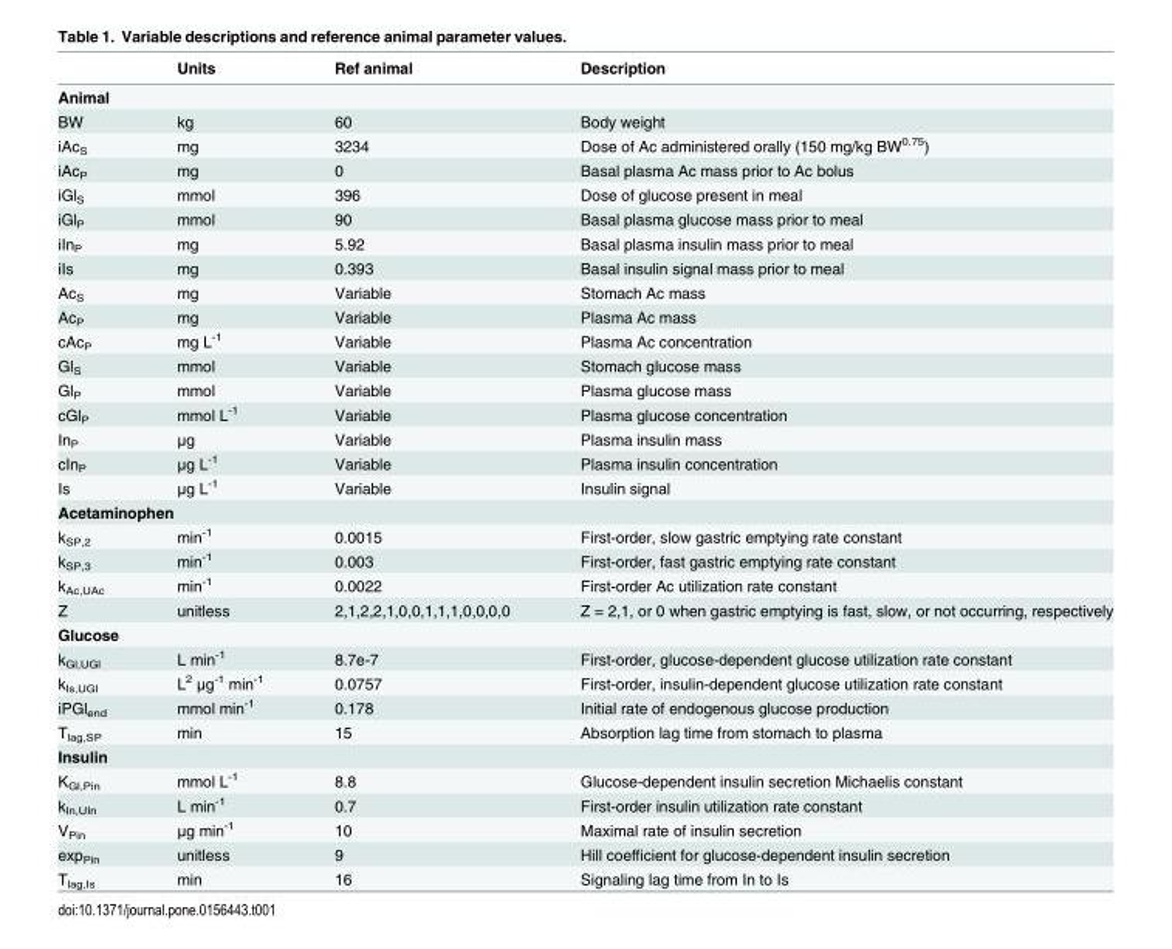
<table><thead><tr><td></td><td>Units</td><td>Ref animal</td><td>Description</td></tr></thead><tbody><tr><td colspan="4">Animal</td></tr><tr><td>BW</td><td>kg</td><td>60</td><td>Body weight</td></tr><tr><td>iAc<sub>S</sub></td><td>mg</td><td>3234</td><td>Dose of Ac administered orally (150 mg/kg BW<sup>0.75</sup>)</td></tr><tr><td>iAc<sub>P</sub></td><td>mg</td><td>0</td><td>Basal plasma Ac mass prior to Ac bolus</td></tr><tr><td>iGl<sub>S</sub></td><td>mmol</td><td>396</td><td>Dose of glucose present in meal</td></tr><tr><td>iGl<sub>P</sub></td><td>mmol</td><td>90</td><td>Basal plasma glucose mass prior to meal</td></tr><tr><td>iIn<sub>P</sub></td><td>mg</td><td>5.92</td><td>Basal plasma insulin mass prior to meal</td></tr><tr><td>iIs</td><td>mg</td><td>0.393</td><td>Basal insulin signal mass prior to meal</td></tr><tr><td>Ac<sub>S</sub></td><td>mg</td><td>Variable</td><td>Stomach Ac mass</td></tr><tr><td>Ac<sub>P</sub></td><td>mg</td><td>Variable</td><td>Plasma Ac mass</td></tr><tr><td>cAc<sub>P</sub></td><td>mg L<sup>-1</sup></td><td>Variable</td><td>Plasma Ac concentration</td></tr><tr><td>Gl<sub>S</sub></td><td>mmol</td><td>Variable</td><td>Stomach glucose mass</td></tr><tr><td>Gl<sub>P</sub></td><td>mmol</td><td>Variable</td><td>Plasma glucose mass</td></tr><tr><td>cGl<sub>P</sub></td><td>mmol L<sup>-1</sup></td><td>Variable</td><td>Plasma glucose concentration</td></tr><tr><td>In<sub>P</sub></td><td>μg</td><td>Variable</td><td>Plasma insulin mass</td></tr><tr><td>cIn<sub>P</sub></td><td>μg L<sup>-1</sup></td><td>Variable</td><td>Plasma insulin concentration</td></tr><tr><td>Is</td><td>μg L<sup>-1</sup></td><td>Variable</td><td>Insulin signal</td></tr><tr><td colspan="4">Acetaminophen</td></tr><tr><td>k<sub>SP,2</sub></td><td>min<sup>-1</sup></td><td>0.0015</td><td>First-order, slow gastric emptying rate constant</td></tr><tr><td>k<sub>SP,3</sub></td><td>min<sup>-1</sup></td><td>0.003</td><td>First-order, fast gastric emptying rate constant</td></tr><tr><td>k<sub>Ac,UAc</sub></td><td>min<sup>-1</sup></td><td>0.0022</td><td>First-order Ac utilization rate constant</td></tr><tr><td>Z</td><td>unitless</td><td>2,1,2,2,1,0,0,1,1,1,0,0,0,0</td><td>Z = 2,1, or 0 when gastric emptying is fast, slow, or not occurring, respectively</td></tr><tr><td colspan="4">Glucose</td></tr><tr><td>k<sub>Gl,UGl</sub></td><td>L min<sup>-1</sup></td><td>8.7e-7</td><td>First-order, glucose-dependent glucose utilization rate constant</td></tr><tr><td>k<sub>Is,UGl</sub></td><td>L<sup>2</sup> μg<sup>-1</sup> min<sup>-1</sup></td><td>0.0757</td><td>First-order, insulin-dependent glucose utilization rate constant</td></tr><tr><td>iPGl<sub>end</sub></td><td>mmol min<sup>-1</sup></td><td>0.178</td><td>Initial rate of endogenous glucose production</td></tr><tr><td>T<sub>lag,SP</sub></td><td>min</td><td>15</td><td>Absorption lag time from stomach to plasma</td></tr><tr><td colspan="4">Insulin</td></tr><tr><td>K<sub>Gl,Pin</sub></td><td>mmol L<sup>-1</sup></td><td>8.8</td><td>Glucose-dependent insulin secretion Michaelis constant</td></tr><tr><td>k<sub>In,UIn</sub></td><td>L min<sup>-1</sup></td><td>0.7</td><td>First-order insulin utilization rate constant</td></tr><tr><td>V<sub>Pin</sub></td><td>μg min<sup>-1</sup></td><td>10</td><td>Maximal rate of insulin secretion</td></tr><tr><td>exp<sub>Pin</sub></td><td>unitless</td><td>9</td><td>Hill coefficient for glucose-dependent insulin secretion</td></tr><tr><td>T<sub>lag,Is</sub></td><td>min</td><td>16</td><td>Signaling lag time from In to Is</td></tr></tbody></table>